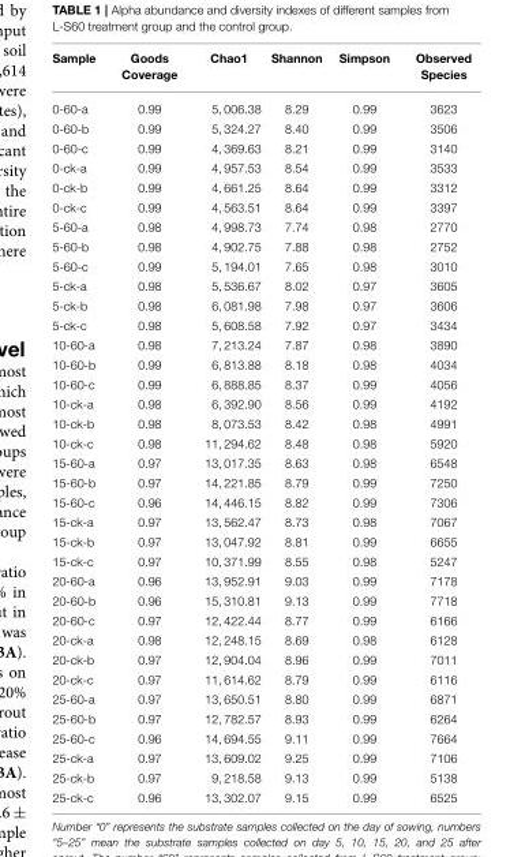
<table><thead><tr><td>Sample</td><td>Goods Coverage</td><td>Chao1</td><td>Shannon</td><td>Simpson</td><td>Observed Species</td></tr></thead><tbody><tr><td>0-60-a</td><td>0.99</td><td>5, 006.38</td><td>8.29</td><td>0.99</td><td>3623</td></tr><tr><td>0-60-b</td><td>0.99</td><td>5, 324.27</td><td>8.40</td><td>0.99</td><td>3506</td></tr><tr><td>0-60-c</td><td>0.99</td><td>4, 369.63</td><td>8.21</td><td>0.99</td><td>3140</td></tr><tr><td>0-ck-a</td><td>0.99</td><td>4, 957.53</td><td>8.54</td><td>0.99</td><td>3533</td></tr><tr><td>0-ck-b</td><td>0.99</td><td>4, 661.25</td><td>8.64</td><td>0.99</td><td>3312</td></tr><tr><td>0-ck-c</td><td>0.99</td><td>4, 563.51</td><td>8.64</td><td>0.99</td><td>3397</td></tr><tr><td>5-60-a</td><td>0.98</td><td>4, 998.73</td><td>7.74</td><td>0.98</td><td>2770</td></tr><tr><td>5-60-b</td><td>0.98</td><td>4, 902.75</td><td>7.88</td><td>0.98</td><td>2752</td></tr><tr><td>5-60-c</td><td>0.99</td><td>5, 194.01</td><td>7.65</td><td>0.98</td><td>3010</td></tr><tr><td>5-ck-a</td><td>0.98</td><td>5, 536.67</td><td>8.02</td><td>0.97</td><td>3605</td></tr><tr><td>5-ck-b</td><td>0.98</td><td>6, 081.98</td><td>7.98</td><td>0.97</td><td>3606</td></tr><tr><td>5-ck-c</td><td>0.98</td><td>5, 608.58</td><td>7.92</td><td>0.97</td><td>3434</td></tr><tr><td>10-60-a</td><td>0.98</td><td>7, 213.24</td><td>7.87</td><td>0.98</td><td>3890</td></tr><tr><td>10-60-b</td><td>0.99</td><td>6, 813.88</td><td>8.18</td><td>0.98</td><td>4034</td></tr><tr><td>10-60-c</td><td>0.99</td><td>6, 888.85</td><td>8.37</td><td>0.99</td><td>4056</td></tr><tr><td>10-ck-a</td><td>0.98</td><td>6, 392.90</td><td>8.56</td><td>0.99</td><td>4192</td></tr><tr><td>10-ck-b</td><td>0.98</td><td>8, 073.53</td><td>8.42</td><td>0.98</td><td>4991</td></tr><tr><td>10-ck-c</td><td>0.98</td><td>11, 294.62</td><td>8.48</td><td>0.98</td><td>5920</td></tr><tr><td>15-60-a</td><td>0.97</td><td>13, 017.35</td><td>8.63</td><td>0.98</td><td>6548</td></tr><tr><td>15-60-b</td><td>0.97</td><td>14, 221.85</td><td>8.79</td><td>0.99</td><td>7250</td></tr><tr><td>15-60-c</td><td>0.96</td><td>14, 446.15</td><td>8.82</td><td>0.99</td><td>7306</td></tr><tr><td>15-ck-a</td><td>0.97</td><td>13, 562.47</td><td>8.73</td><td>0.98</td><td>7067</td></tr><tr><td>15-ck-b</td><td>0.97</td><td>13, 047.92</td><td>8.81</td><td>0.99</td><td>6655</td></tr><tr><td>15-ck-c</td><td>0.97</td><td>10, 371.99</td><td>8.55</td><td>0.98</td><td>5247</td></tr><tr><td>20-60-a</td><td>0.96</td><td>13, 952.91</td><td>9.03</td><td>0.99</td><td>7178</td></tr><tr><td>20-60-b</td><td>0.96</td><td>15, 310.81</td><td>9.13</td><td>0.99</td><td>7718</td></tr><tr><td>20-60-c</td><td>0.97</td><td>12, 422.44</td><td>8.77</td><td>0.99</td><td>6166</td></tr><tr><td>20-ck-a</td><td>0.98</td><td>12, 248.15</td><td>8.69</td><td>0.98</td><td>6128</td></tr><tr><td>20-ck-b</td><td>0.97</td><td>12, 904.04</td><td>8.96</td><td>0.99</td><td>7011</td></tr><tr><td>20-ck-c</td><td>0.97</td><td>11, 614.62</td><td>8.79</td><td>0.99</td><td>6116</td></tr><tr><td>25-60-a</td><td>0.97</td><td>13, 650.51</td><td>8.80</td><td>0.99</td><td>6871</td></tr><tr><td>25-60-b</td><td>0.97</td><td>12, 782.57</td><td>8.93</td><td>0.99</td><td>6264</td></tr><tr><td>25-60-c</td><td>0.96</td><td>14, 694.55</td><td>9.11</td><td>0.99</td><td>7664</td></tr><tr><td>25-ck-a</td><td>0.97</td><td>13, 609.02</td><td>9.25</td><td>0.99</td><td>7106</td></tr><tr><td>25-ck-b</td><td>0.97</td><td>9, 218.58</td><td>9.13</td><td>0.99</td><td>5138</td></tr><tr><td>25-ck-c</td><td>0.96</td><td>13, 302.07</td><td>9.15</td><td>0.99</td><td>6525</td></tr></tbody></table>